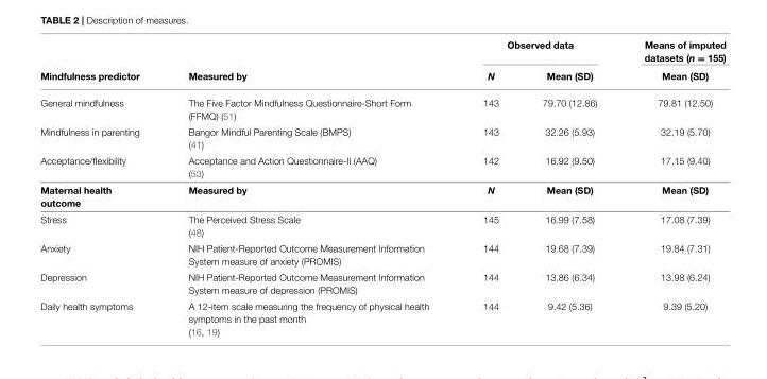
<table><thead><tr><td rowspan="2">Mindfulness predictor</td><td rowspan="2">Measured by</td><td colspan="2">Observed data</td><td rowspan="2">Means of imputed datasets (n = 155) Mean (SD)</td></tr><tr><td>N</td><td>Mean (SD)</td></tr></thead><tbody><tr><td>General mindfulness</td><td>The Five Factor Mindfulness Questionnaire-Short Form (FFMQ) (51)</td><td>143</td><td>79.70 (12.86)</td><td>79.81 (12.50)</td></tr><tr><td>Mindfulness in parenting</td><td>Bangor Mindful Parenting Scale (BMPS) (41)</td><td>143</td><td>32.26 (5.93)</td><td>32.19 (5.70)</td></tr><tr><td>Acceptance/flexibility</td><td>Acceptance and Action Questionnaire-II (AAQ) (53)</td><td>142</td><td>16.92 (9.50)</td><td>17.15 (9.40)</td></tr><tr><td>Maternal health outcome</td><td>Measured by</td><td>N</td><td>Mean (SD)</td><td>Mean (SD)</td></tr><tr><td>Stress</td><td>The Perceived Stress Scale (48)</td><td>145</td><td>16.99 (7.58)</td><td>17.08 (7.39)</td></tr><tr><td>Anxiety</td><td>NIH Patient-Reported Outcome Measurement Information System measure of anxiety (PROMIS)</td><td>144</td><td>19.68 (7.39)</td><td>19.84 (7.31)</td></tr><tr><td>Depression</td><td>NIH Patient-Reported Outcome Measurement Information System measure of depression (PROMIS)</td><td>144</td><td>13.86 (6.34)</td><td>13.98 (6.24)</td></tr><tr><td>Daily health symptoms</td><td>A 12-item scale measuring the frequency of physical health symptoms in the past month (16, 19)</td><td>144</td><td>9.42 (5.36)</td><td>9.39 (5.20)</td></tr></tbody></table>